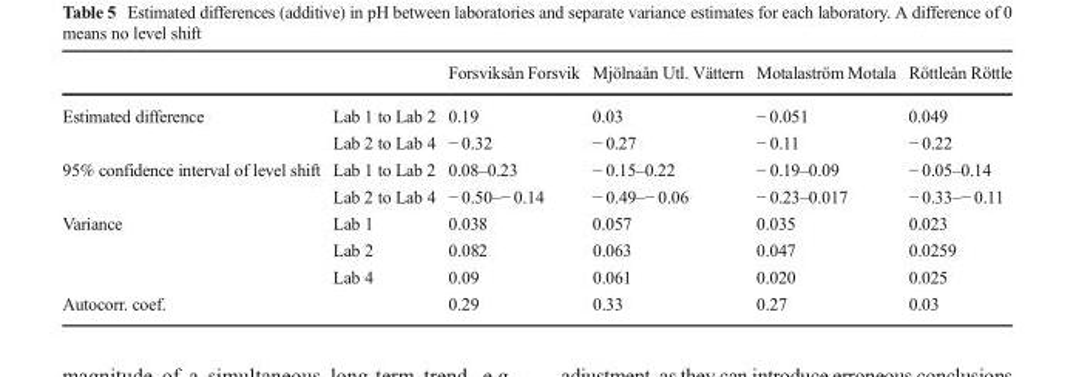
<table><thead><tr><td></td><td></td><td>Forsviksån Forsvik</td><td>Mjölnaån Utl. Vättern</td><td>Motalaström Motala</td><td>Röttleån Röttle</td></tr></thead><tbody><tr><td rowspan="2">Estimated difference</td><td>Lab 1 to Lab 2</td><td>0.19</td><td>0.03</td><td>− 0.051</td><td>0.049</td></tr><tr><td>Lab 2 to Lab 4</td><td>− 0.32</td><td>− 0.27</td><td>− 0.11</td><td>− 0.22</td></tr><tr><td rowspan="2">95% confidence interval of level shift</td><td>Lab 1 to Lab 2</td><td>0.08–0.23</td><td>− 0.15–0.22</td><td>− 0.19–0.09</td><td>− 0.05–0.14</td></tr><tr><td>Lab 2 to Lab 4</td><td>− 0.50–− 0.14</td><td>− 0.49–− 0.06</td><td>− 0.23–0.017</td><td>− 0.33–− 0.11</td></tr><tr><td rowspan="3">Variance</td><td>Lab 1</td><td>0.038</td><td>0.057</td><td>0.035</td><td>0.023</td></tr><tr><td>Lab 2</td><td>0.082</td><td>0.063</td><td>0.047</td><td>0.0259</td></tr><tr><td>Lab 4</td><td>0.09</td><td>0.061</td><td>0.020</td><td>0.025</td></tr><tr><td>Autocorr. coef.</td><td></td><td>0.29</td><td>0.33</td><td>0.27</td><td>0.03</td></tr></tbody></table>